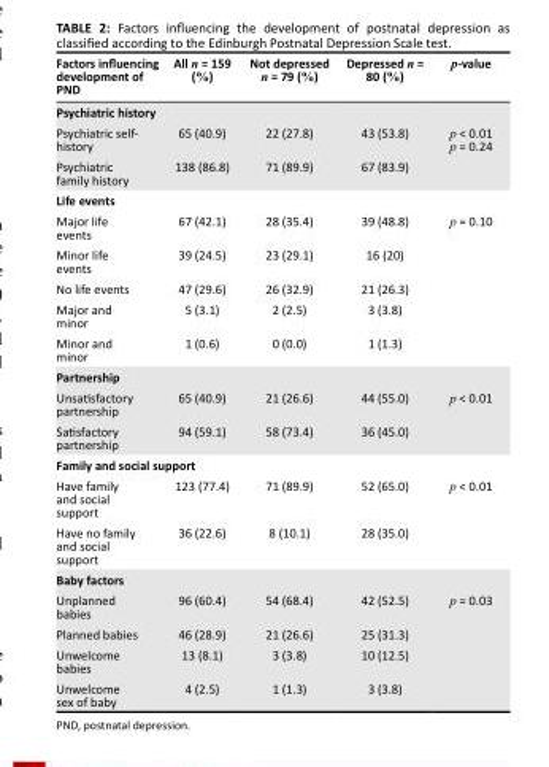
<table><thead><tr><td>Factors influencing development of PND</td><td>All n = 159 (%)</td><td>Not depressed n = 79 (%)</td><td>Depressed n = 80 (%)</td><td>p-value</td></tr></thead><tbody><tr><td colspan="5">Psychiatric history</td></tr><tr><td>Psychiatric self- history</td><td>65 (40.9)</td><td>22 (27.8)</td><td>43 (53.8)</td><td>p &lt; 0.01 p = 0.24</td></tr><tr><td>Psychiatric family history</td><td>138 (86.8)</td><td>71 (89.9)</td><td>67 (83.9)</td><td></td></tr><tr><td colspan="5">Life events</td></tr><tr><td>Major life events</td><td>67 (42.1)</td><td>28 (35.4)</td><td>39 (48.8)</td><td>p = 0.10</td></tr><tr><td>Minor life events</td><td>39 (24.5)</td><td>23 (29.1)</td><td>16 (20)</td><td></td></tr><tr><td>No life events</td><td>47 (29.6)</td><td>26 (32.9)</td><td>21 (26.3)</td><td></td></tr><tr><td>Major and minor</td><td>5 (3.1)</td><td>2 (2.5)</td><td>3 (3.8)</td><td></td></tr><tr><td>Minor and minor</td><td>1 (0.6)</td><td>0 (0.0)</td><td>1 (1.3)</td><td></td></tr><tr><td colspan="5">Partnership</td></tr><tr><td>Unsatisfactory partnership</td><td>65 (40.9)</td><td>21 (26.6)</td><td>44 (55.0)</td><td>p &lt; 0.01</td></tr><tr><td>Satisfactory partnership</td><td>94 (59.1)</td><td>58 (73.4)</td><td>36 (45.0)</td><td></td></tr><tr><td colspan="5">Family and social support</td></tr><tr><td>Have family and social support</td><td>123 (77.4)</td><td>71 (89.9)</td><td>52 (65.0)</td><td>p &lt; 0.01</td></tr><tr><td>Have no family and social support</td><td>36 (22.6)</td><td>8 (10.1)</td><td>28 (35.0)</td><td></td></tr><tr><td colspan="5">Baby factors</td></tr><tr><td>Unplanned babies</td><td>96 (60.4)</td><td>54 (68.4)</td><td>42 (52.5)</td><td>p = 0.03</td></tr><tr><td>Planned babies</td><td>46 (28.9)</td><td>21 (26.6)</td><td>25 (31.3)</td><td></td></tr><tr><td>Unwelcome babies</td><td>13 (8.1)</td><td>3 (3.8)</td><td>10 (12.5)</td><td></td></tr><tr><td>Unwelcome sex of baby</td><td>4 (2.5)</td><td>1 (1.3)</td><td>3 (3.8)</td><td></td></tr></tbody></table>